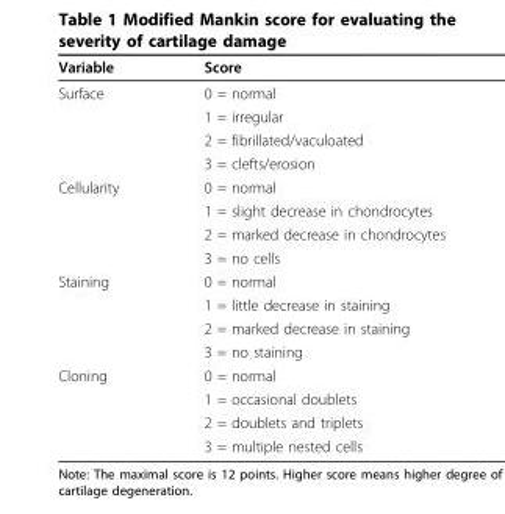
<table><thead><tr><td>Variable</td><td>Score</td></tr></thead><tbody><tr><td rowspan="4">Surface</td><td>0 = normal</td></tr><tr><td>1 = irregular</td></tr><tr><td>2 = fibrillated/vaculoated</td></tr><tr><td>3 = clefts/erosion</td></tr><tr><td rowspan="4">Cellularity</td><td>0 = normal</td></tr><tr><td>1 = slight decrease in chondrocytes</td></tr><tr><td>2 = marked decrease in chondrocytes</td></tr><tr><td>3 = no cells</td></tr><tr><td rowspan="4">Staining</td><td>0 = normal</td></tr><tr><td>1 = little decrease in staining</td></tr><tr><td>2 = marked decrease in staining</td></tr><tr><td>3 = no staining</td></tr><tr><td rowspan="4">Cloning</td><td>0 = normal</td></tr><tr><td>1 = occasional doublets</td></tr><tr><td>2 = doublets and triplets</td></tr><tr><td>3 = multiple nested cells</td></tr></tbody></table>